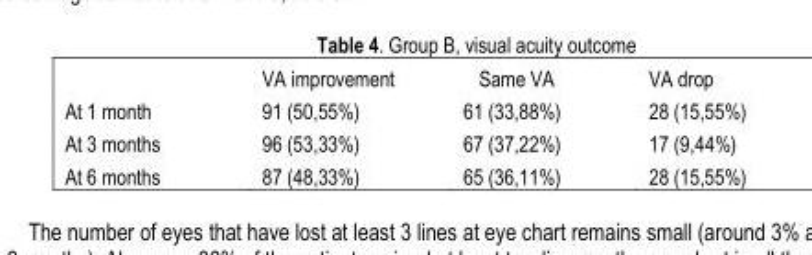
<table><thead><tr><td></td><td>VA improvement</td><td>Same VA</td><td>VA drop</td></tr></thead><tbody><tr><td>At 1 month</td><td>91 (50,55%)</td><td>61 (33,88%)</td><td>28 (15,55%)</td></tr><tr><td>At 3 months</td><td>96 (53,33%)</td><td>67 (37,22%)</td><td>17 (9,44%)</td></tr><tr><td>At 6 months</td><td>87 (48,33%)</td><td>65 (36,11%)</td><td>28 (15,55%)</td></tr></tbody></table>